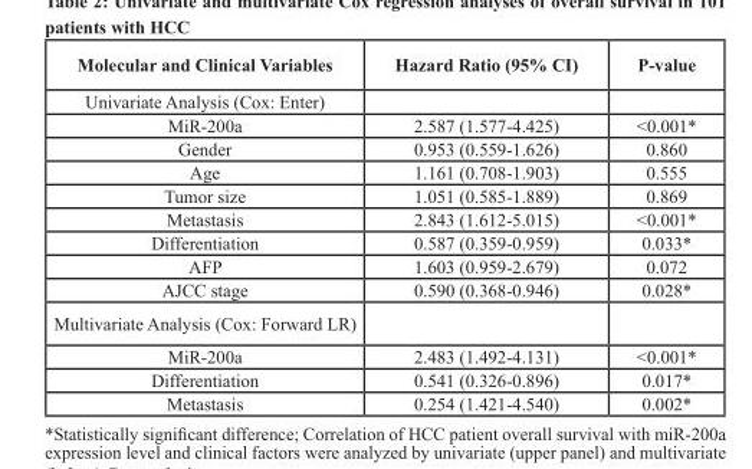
<table><thead><tr><td>Molecular and Clinical Variables</td><td>Hazard Ratio (95% CI)</td><td>P-value</td></tr></thead><tbody><tr><td colspan="3">Univariate Analysis (Cox: Enter)</td></tr><tr><td>MiR-200a</td><td>2.587 (1.577-4.425)</td><td>&lt;0.001*</td></tr><tr><td>Gender</td><td>0.953 (0.559-1.626)</td><td>0.860</td></tr><tr><td>Age</td><td>1.161 (0.708-1.903)</td><td>0.555</td></tr><tr><td>Tumor size</td><td>1.051 (0.585-1.889)</td><td>0.869</td></tr><tr><td>Metastasis</td><td>2.843 (1.612-5.015)</td><td>&lt;0.001*</td></tr><tr><td>Differentiation</td><td>0.587 (0.359-0.959)</td><td>0.033*</td></tr><tr><td>AFP</td><td>1.603 (0.959-2.679)</td><td>0.072</td></tr><tr><td>AJCC stage</td><td>0.590 (0.368-0.946)</td><td>0.028*</td></tr><tr><td colspan="3">Multivariate Analysis (Cox: Forward LR)</td></tr><tr><td>MiR-200a</td><td>2.483 (1.492-4.131)</td><td>&lt;0.001*</td></tr><tr><td>Differentiation</td><td>0.541 (0.326-0.896)</td><td>0.017*</td></tr><tr><td>Metastasis</td><td>0.254 (1.421-4.540)</td><td>0.002*</td></tr></tbody></table>